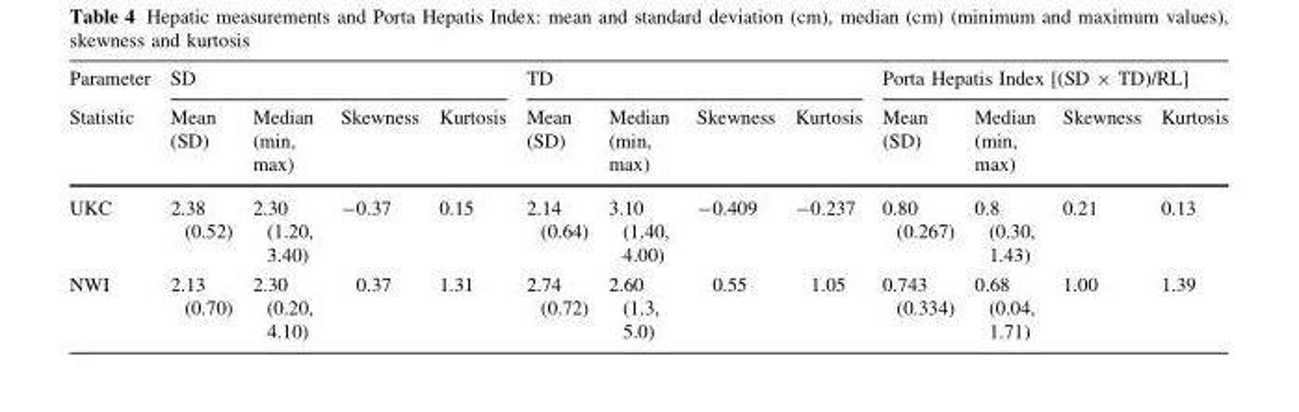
<table><thead><tr><td rowspan="2">Parameter Statistic</td><td colspan="4">SD</td><td colspan="4">TD</td><td colspan="4">Porta Hepatis Index [(SD × TD)/RL]</td></tr><tr><td>Mean (SD)</td><td>Median (min, max)</td><td>Skewness</td><td>Kurtosis</td><td>Mean (SD)</td><td>Median (min, max)</td><td>Skewness</td><td>Kurtosis</td><td>Mean (SD)</td><td>Median (min, max)</td><td>Skewness</td><td>Kurtosis</td></tr></thead><tbody><tr><td>UKC</td><td>2.38 (0.52)</td><td>2.30 (1.20, 3.40)</td><td>-0.37</td><td>0.15</td><td>2.14 (0.64)</td><td>3.10 (1.40, 4.00)</td><td>-0.409</td><td>-0.237</td><td>0.80 (0.267)</td><td>0.8 (0.30, 1.43)</td><td>0.21</td><td>0.13</td></tr><tr><td>NWI</td><td>2.13 (0.70)</td><td>2.30 (0.20, 4.10)</td><td>0.37</td><td>1.31</td><td>2.74 (0.72)</td><td>2.60 (1.3, 5.0)</td><td>0.55</td><td>1.05</td><td>0.743 (0.334)</td><td>0.68 (0.04, 1.71)</td><td>1.00</td><td>1.39</td></tr></tbody></table>